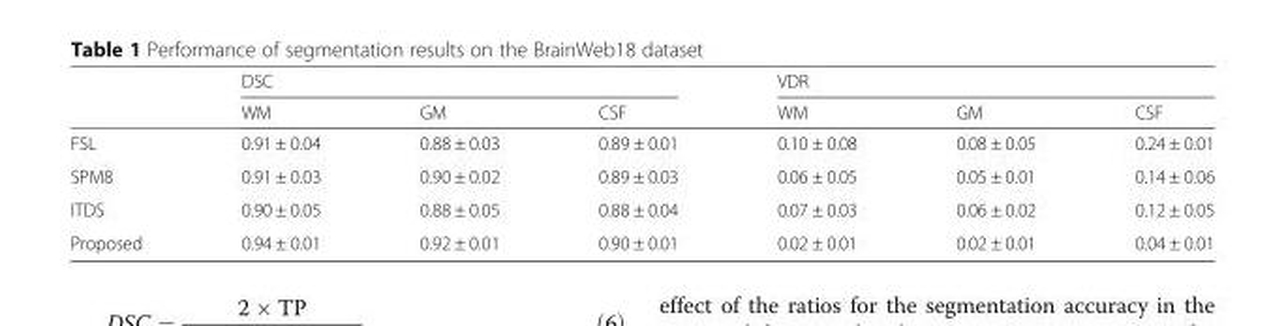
<table><thead><tr><td rowspan="2"></td><td colspan="3">DSC</td><td colspan="3">VDR</td></tr><tr><td>WM</td><td>GM</td><td>CSF</td><td>WM</td><td>GM</td><td>CSF</td></tr></thead><tbody><tr><td>FSL</td><td>0.91 ± 0.04</td><td>0.88 ± 0.03</td><td>0.89 ± 0.01</td><td>0.10 ± 0.08</td><td>0.08 ± 0.05</td><td>0.24 ± 0.01</td></tr><tr><td>SPM8</td><td>0.91 ± 0.03</td><td>0.90 ± 0.02</td><td>0.89 ± 0.03</td><td>0.06 ± 0.05</td><td>0.05 ± 0.01</td><td>0.14 ± 0.06</td></tr><tr><td>ITDS</td><td>0.90 ± 0.05</td><td>0.88 ± 0.05</td><td>0.88 ± 0.04</td><td>0.07 ± 0.03</td><td>0.06 ± 0.02</td><td>0.12 ± 0.05</td></tr><tr><td>Proposed</td><td>0.94 ± 0.01</td><td>0.92 ± 0.01</td><td>0.90 ± 0.01</td><td>0.02 ± 0.01</td><td>0.02 ± 0.01</td><td>0.04 ± 0.01</td></tr></tbody></table>